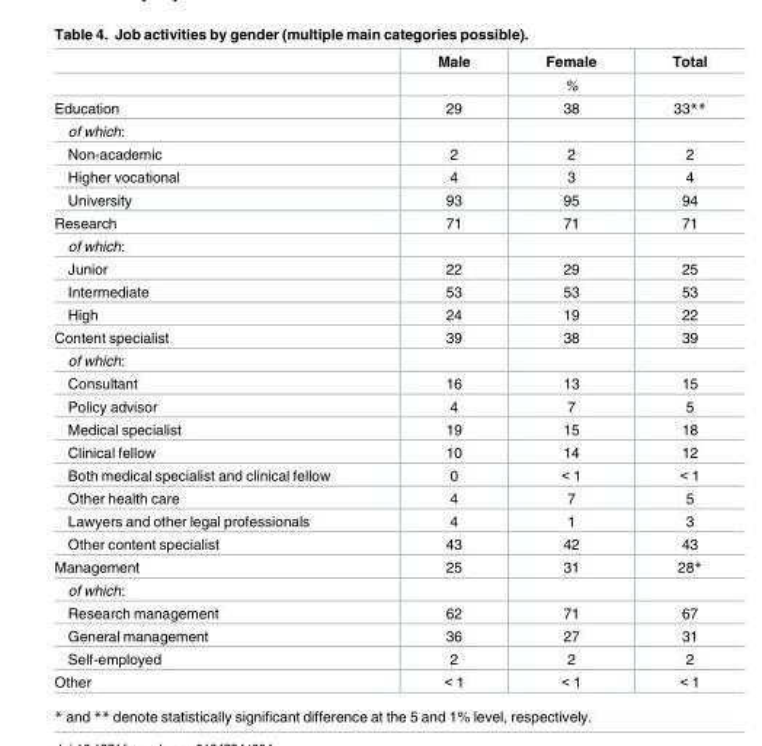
<table><thead><tr><td></td><td>Male</td><td>Female</td><td>Total</td></tr></thead><tbody><tr><td></td><td></td><td>%</td><td></td></tr><tr><td>Education</td><td>29</td><td>38</td><td>33**</td></tr><tr><td colspan="4">of which:</td></tr><tr><td>Non-academic</td><td>2</td><td>2</td><td>2</td></tr><tr><td>Higher vocational</td><td>4</td><td>3</td><td>4</td></tr><tr><td>University</td><td>93</td><td>95</td><td>94</td></tr><tr><td>Research</td><td>71</td><td>71</td><td>71</td></tr><tr><td colspan="4">of which:</td></tr><tr><td>Junior</td><td>22</td><td>29</td><td>25</td></tr><tr><td>Intermediate</td><td>53</td><td>53</td><td>53</td></tr><tr><td>High</td><td>24</td><td>19</td><td>22</td></tr><tr><td>Content specialist</td><td>39</td><td>38</td><td>39</td></tr><tr><td colspan="4">of which:</td></tr><tr><td>Consultant</td><td>16</td><td>13</td><td>15</td></tr><tr><td>Policy advisor</td><td>4</td><td>7</td><td>5</td></tr><tr><td>Medical specialist</td><td>19</td><td>15</td><td>18</td></tr><tr><td>Clinical fellow</td><td>10</td><td>14</td><td>12</td></tr><tr><td>Both medical specialist and clinical fellow</td><td>0</td><td>&lt; 1</td><td>&lt; 1</td></tr><tr><td>Other health care</td><td>4</td><td>7</td><td>5</td></tr><tr><td>Lawyers and other legal professionals</td><td>4</td><td>1</td><td>3</td></tr><tr><td>Other content specialist</td><td>43</td><td>42</td><td>43</td></tr><tr><td>Management</td><td>25</td><td>31</td><td>28*</td></tr><tr><td colspan="4">of which:</td></tr><tr><td>Research management</td><td>62</td><td>71</td><td>67</td></tr><tr><td>General management</td><td>36</td><td>27</td><td>31</td></tr><tr><td>Self-employed</td><td>2</td><td>2</td><td>2</td></tr><tr><td>Other</td><td>&lt; 1</td><td>&lt; 1</td><td>&lt; 1</td></tr></tbody></table>